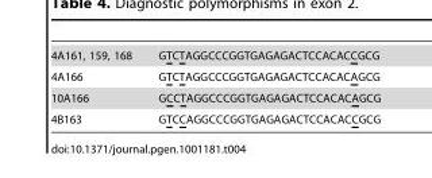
<table><tbody><tr><td>4A161, 159, 168</td><td>GTCTAGGCCCGGTGAGAGACTCCACACCGCG</td></tr><tr><td>4A166</td><td>GTCTAGGCCCGGTGAGAGACTCCACACAGCG</td></tr><tr><td>10A166</td><td>GCCTAGGCCCGGTGAGAGACTCCACACAGCG</td></tr><tr><td>4B163</td><td>GTCCAGGCCCGGTGAGAGACTCCACACCGCG</td></tr></tbody></table>